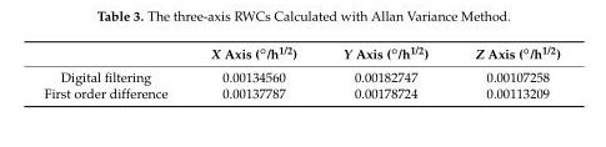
<table><thead><tr><td></td><td>X Axis (◦/h1/2)</td><td>Y Axis (◦/h1/2)</td><td>Z Axis (◦/h1/2)</td></tr></thead><tbody><tr><td>Digital filtering</td><td>0.00134560</td><td>0.00182747</td><td>0.00107258</td></tr><tr><td>First order difference</td><td>0.00137787</td><td>0.00178724</td><td>0.00113209</td></tr></tbody></table>